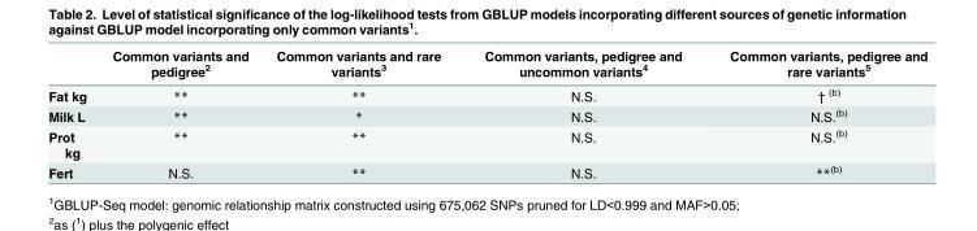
<table><thead><tr><td></td><td>Common variants and pedigree<sup>2</sup></td><td>Common variants and rare variants<sup>3</sup></td><td>Common variants, pedigree and uncommon variants<sup>4</sup></td><td>Common variants, pedigree and rare variants<sup>5</sup></td></tr></thead><tbody><tr><td>Fat kg</td><td>**</td><td>**</td><td>N.S.</td><td>† <sup>(b)</sup></td></tr><tr><td>Milk L</td><td>**</td><td>*</td><td>N.S.</td><td>N.S.<sup>(b)</sup></td></tr><tr><td>Prot kg</td><td>**</td><td>**</td><td>N.S.</td><td>N.S.<sup>(b)</sup></td></tr><tr><td>Fert</td><td>N.S.</td><td>**</td><td>N.S.</td><td>**<sup>(b)</sup></td></tr></tbody></table>